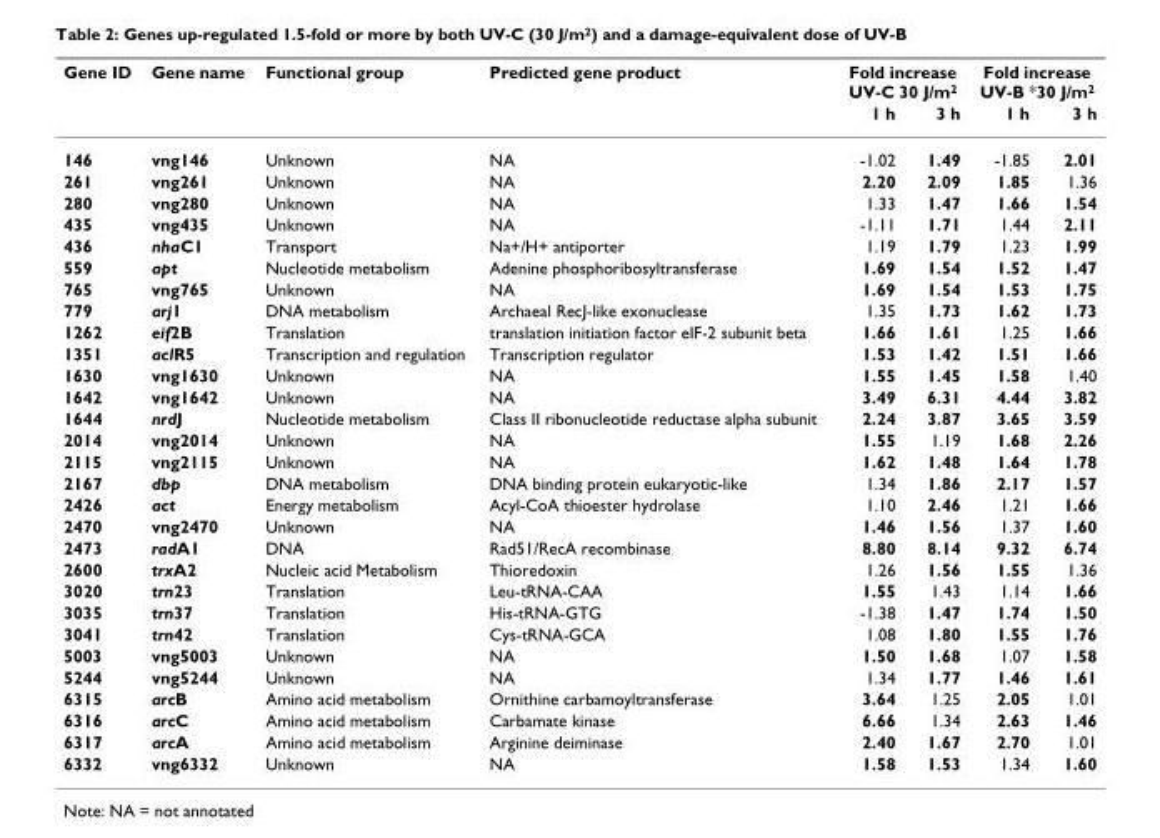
<table><thead><tr><td rowspan="2">Gene ID</td><td rowspan="2">Gene name</td><td rowspan="2">Functional group</td><td rowspan="2">Predicted gene product</td><td colspan="2">Fold increase UV-C 30 J/m<sup>2</sup></td><td colspan="2">Fold increase UV-B *30 J/m<sup>2</sup></td></tr><tr><td>1 h</td><td>3 h</td><td>1 h</td><td>3 h</td></tr></thead><tbody><tr><td>146</td><td>vng146</td><td>Unknown</td><td>NA</td><td>-1.02</td><td>1.49</td><td>-1.85</td><td>2.01</td></tr><tr><td>261</td><td>vng261</td><td>Unknown</td><td>NA</td><td>2.20</td><td>2.09</td><td>1.85</td><td>1.36</td></tr><tr><td>280</td><td>vng280</td><td>Unknown</td><td>NA</td><td>1.33</td><td>1.47</td><td>1.66</td><td>1.54</td></tr><tr><td>435</td><td>vng435</td><td>Unknown</td><td>NA</td><td>-1.11</td><td>1.71</td><td>1.44</td><td>2.11</td></tr><tr><td>436</td><td>nhaC1</td><td>Transport</td><td>Na+/H+ antiporter</td><td>1.19</td><td>1.79</td><td>1.23</td><td>1.99</td></tr><tr><td>559</td><td>apt</td><td>Nucleotide metabolism</td><td>Adenine phosphoribosyltransferase</td><td>1.69</td><td>1.54</td><td>1.52</td><td>1.47</td></tr><tr><td>765</td><td>vng765</td><td>Unknown</td><td>NA</td><td>1.69</td><td>1.54</td><td>1.53</td><td>1.75</td></tr><tr><td>779</td><td>arj1</td><td>DNA metabolism</td><td>Archaeal RecJ-like exonuclease</td><td>1.35</td><td>1.73</td><td>1.62</td><td>1.73</td></tr><tr><td>1262</td><td>eif2B</td><td>Translation</td><td>translation initiation factor eIF-2 subunit beta</td><td>1.66</td><td>1.61</td><td>1.25</td><td>1.66</td></tr><tr><td>1351</td><td>aclR5</td><td>Transcription and regulation</td><td>Transcription regulator</td><td>1.53</td><td>1.42</td><td>1.51</td><td>1.66</td></tr><tr><td>1630</td><td>vng1630</td><td>Unknown</td><td>NA</td><td>1.55</td><td>1.45</td><td>1.58</td><td>1.40</td></tr><tr><td>1642</td><td>vng1642</td><td>Unknown</td><td>NA</td><td>3.49</td><td>6.31</td><td>4.44</td><td>3.82</td></tr><tr><td>1644</td><td>nrdJ</td><td>Nucleotide metabolism</td><td>Class II ribonucleotide reductase alpha subunit</td><td>2.24</td><td>3.87</td><td>3.65</td><td>3.59</td></tr><tr><td>2014</td><td>vng2014</td><td>Unknown</td><td>NA</td><td>1.55</td><td>1.19</td><td>1.68</td><td>2.26</td></tr><tr><td>2115</td><td>vng2115</td><td>Unknown</td><td>NA</td><td>1.62</td><td>1.48</td><td>1.64</td><td>1.78</td></tr><tr><td>2167</td><td>dbp</td><td>DNA metabolism</td><td>DNA binding protein eukaryotic-like</td><td>1.34</td><td>1.86</td><td>2.17</td><td>1.57</td></tr><tr><td>2426</td><td>act</td><td>Energy metabolism</td><td>Acyl-CoA thioester hydrolase</td><td>1.10</td><td>2.46</td><td>1.21</td><td>1.66</td></tr><tr><td>2470</td><td>vng2470</td><td>Unknown</td><td>NA</td><td>1.46</td><td>1.56</td><td>1.37</td><td>1.60</td></tr><tr><td>2473</td><td>radA1</td><td>DNA</td><td>Rad51/RecA recombinase</td><td>8.80</td><td>8.14</td><td>9.32</td><td>6.74</td></tr><tr><td>2600</td><td>trxA2</td><td>Nucleic acid Metabolism</td><td>Thioredoxin</td><td>1.26</td><td>1.56</td><td>1.55</td><td>1.36</td></tr><tr><td>3020</td><td>trn23</td><td>Translation</td><td>Leu-tRNA-CAA</td><td>1.55</td><td>1.43</td><td>1.14</td><td>1.66</td></tr><tr><td>3035</td><td>trn37</td><td>Translation</td><td>His-tRNA-GTG</td><td>-1.38</td><td>1.47</td><td>1.74</td><td>1.50</td></tr><tr><td>3041</td><td>trn42</td><td>Translation</td><td>Cys-tRNA-GCA</td><td>1.08</td><td>1.80</td><td>1.55</td><td>1.76</td></tr><tr><td>5003</td><td>vng5003</td><td>Unknown</td><td>NA</td><td>1.50</td><td>1.68</td><td>1.07</td><td>1.58</td></tr><tr><td>5244</td><td>vng5244</td><td>Unknown</td><td>NA</td><td>1.34</td><td>1.77</td><td>1.46</td><td>1.61</td></tr><tr><td>6315</td><td>arcB</td><td>Amino acid metabolism</td><td>Ornithine carbamoyltransferase</td><td>3.64</td><td>1.25</td><td>2.05</td><td>1.01</td></tr><tr><td>6316</td><td>arcC</td><td>Amino acid metabolism</td><td>Carbamate kinase</td><td>6.66</td><td>1.34</td><td>2.63</td><td>1.46</td></tr><tr><td>6317</td><td>arcA</td><td>Amino acid metabolism</td><td>Arginine deiminase</td><td>2.40</td><td>1.67</td><td>2.70</td><td>1.01</td></tr><tr><td>6332</td><td>vng6332</td><td>Unknown</td><td>NA</td><td>1.58</td><td>1.53</td><td>1.34</td><td>1.60</td></tr></tbody></table>